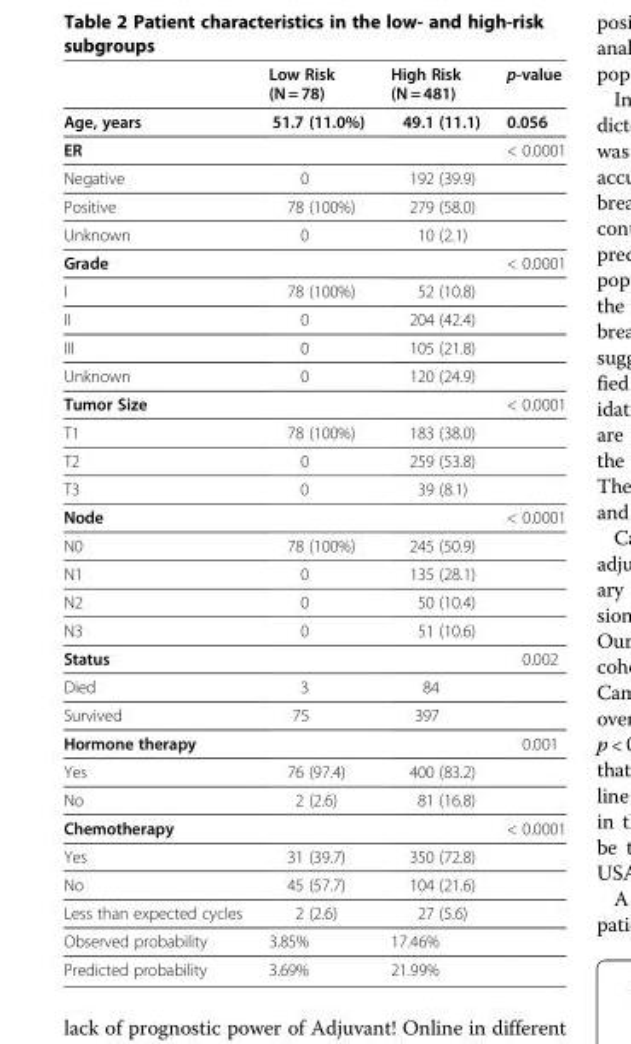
<table><thead><tr><td rowspan="2">Age, years</td><td rowspan="2">Low Risk (N = 78) 51.7 (11.0%)</td><td rowspan="2">High Risk (N = 481) 49.1 (11.1)</td><td rowspan="2">p-value 0.056</td></tr><tr></tr></thead><tbody><tr><td>ER</td><td></td><td></td><td>&lt; 0.0001</td></tr><tr><td>Negative</td><td>0</td><td>192 (39.9)</td><td></td></tr><tr><td>Positive</td><td>78 (100%)</td><td>279 (58.0)</td><td></td></tr><tr><td>Unknown</td><td>0</td><td>10 (2.1)</td><td></td></tr><tr><td>Grade</td><td></td><td></td><td>&lt; 0.0001</td></tr><tr><td>I</td><td>78 (100%)</td><td>52 (10.8)</td><td></td></tr><tr><td>II</td><td>0</td><td>204 (42.4)</td><td></td></tr><tr><td>III</td><td>0</td><td>105 (21.8)</td><td></td></tr><tr><td>Unknown</td><td>0</td><td>120 (24.9)</td><td></td></tr><tr><td>Tumor Size</td><td></td><td></td><td>&lt; 0.0001</td></tr><tr><td>T1</td><td>78 (100%)</td><td>183 (38.0)</td><td></td></tr><tr><td>T2</td><td>0</td><td>259 (53.8)</td><td></td></tr><tr><td>T3</td><td>0</td><td>39 (8.1)</td><td></td></tr><tr><td>Node</td><td></td><td></td><td>&lt; 0.0001</td></tr><tr><td>N0</td><td>78 (100%)</td><td>245 (50.9)</td><td></td></tr><tr><td>N1</td><td>0</td><td>135 (28.1)</td><td></td></tr><tr><td>N2</td><td>0</td><td>50 (10.4)</td><td></td></tr><tr><td>N3</td><td>0</td><td>51 (10.6)</td><td></td></tr><tr><td>Status</td><td></td><td></td><td>0.002</td></tr><tr><td>Died</td><td>3</td><td>84</td><td></td></tr><tr><td>Survived</td><td>75</td><td>397</td><td></td></tr><tr><td>Hormone therapy</td><td></td><td></td><td>0.001</td></tr><tr><td>Yes</td><td>76 (97.4)</td><td>400 (83.2)</td><td></td></tr><tr><td>No</td><td>2 (2.6)</td><td>81 (16.8)</td><td></td></tr><tr><td>Chemotherapy</td><td></td><td></td><td>&lt; 0.0001</td></tr><tr><td>Yes</td><td>31 (39.7)</td><td>350 (72.8)</td><td></td></tr><tr><td>No</td><td>45 (57.7)</td><td>104 (21.6)</td><td></td></tr><tr><td>Less than expected cycles</td><td>2 (2.6)</td><td>27 (5.6)</td><td></td></tr><tr><td>Observed probability</td><td>3.85%</td><td>17.46%</td><td></td></tr><tr><td>Predicted probability</td><td>3.69%</td><td>21.99%</td><td></td></tr></tbody></table>